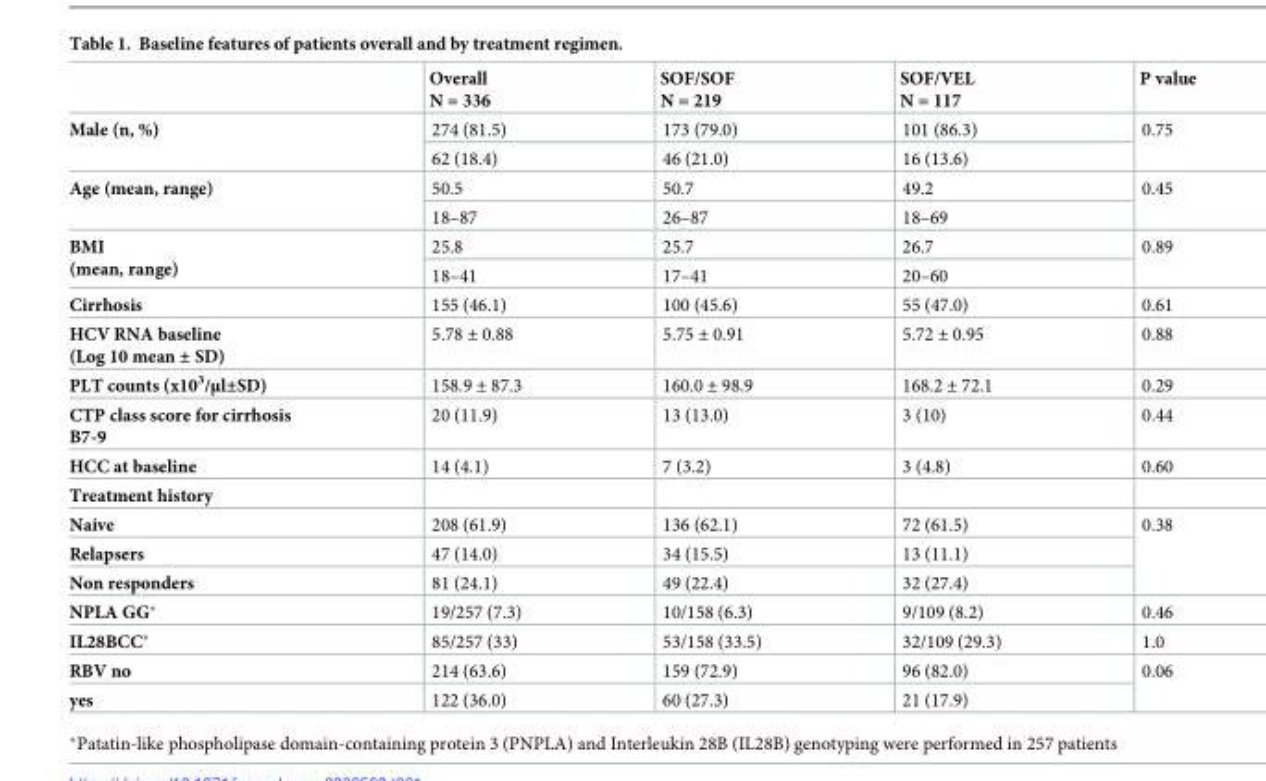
<table><thead><tr><td></td><td>Overall N = 336</td><td>SOF/SOF N = 219</td><td>SOF/VEL N = 117</td><td>P value</td></tr></thead><tbody><tr><td rowspan="2">Male (n, %)</td><td>274 (81.5)</td><td>173 (79.0)</td><td>101 (86.3)</td><td rowspan="2">0.75</td></tr><tr><td>62 (18.4)</td><td>46 (21.0)</td><td>16 (13.6)</td></tr><tr><td rowspan="2">Age (mean, range)</td><td>50.5</td><td>50.7</td><td>49.2</td><td rowspan="2">0.45</td></tr><tr><td>18–87</td><td>26–87</td><td>18–69</td></tr><tr><td rowspan="2">BMI (mean, range)</td><td>25.8</td><td>25.7</td><td>26.7</td><td rowspan="2">0.89</td></tr><tr><td>18–41</td><td>17–41</td><td>20–60</td></tr><tr><td>Cirrhosis</td><td>155 (46.1)</td><td>100 (45.6)</td><td>55 (47.0)</td><td>0.61</td></tr><tr><td>HCV RNA baseline (Log 10 mean ± SD)</td><td>5.78 ± 0.88</td><td>5.75 ± 0.91</td><td>5.72 ± 0.95</td><td>0.88</td></tr><tr><td>PLT counts (x10<sup>3</sup>/μl±SD)</td><td>158.9 ± 87.3</td><td>160.0 ± 98.9</td><td>168.2 ± 72.1</td><td>0.29</td></tr><tr><td>CTP class score for cirrhosis B7-9</td><td>20 (11.9)</td><td>13 (13.0)</td><td>3 (10)</td><td>0.44</td></tr><tr><td>HCC at baseline</td><td>14 (4.1)</td><td>7 (3.2)</td><td>3 (4.8)</td><td>0.60</td></tr><tr><td colspan="5">Treatment history</td></tr><tr><td>Naive</td><td>208 (61.9)</td><td>136 (62.1)</td><td>72 (61.5)</td><td rowspan="3">0.38</td></tr><tr><td>Relapsers</td><td>47 (14.0)</td><td>34 (15.5)</td><td>13 (11.1)</td></tr><tr><td>Non responders</td><td>81 (24.1)</td><td>49 (22.4)</td><td>32 (27.4)</td></tr><tr><td>NPLA GG*</td><td>19/257 (7.3)</td><td>10/158 (6.3)</td><td>9/109 (8.2)</td><td>0.46</td></tr><tr><td>IL28BCC*</td><td>85/257 (33)</td><td>53/158 (33.5)</td><td>32/109 (29.3)</td><td>1.0</td></tr><tr><td>RBV no</td><td>214 (63.6)</td><td>159 (72.9)</td><td>96 (82.0)</td><td rowspan="2">0.06</td></tr><tr><td>yes</td><td>122 (36.0)</td><td>60 (27.3)</td><td>21 (17.9)</td></tr></tbody></table>